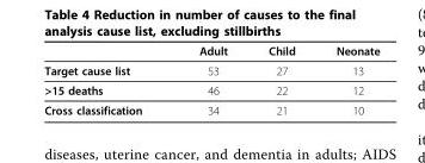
<table><thead><tr><td></td><td>Adult</td><td>Child</td><td>Neonate</td></tr></thead><tbody><tr><td>Target cause list</td><td>53</td><td>27</td><td>13</td></tr><tr><td>&gt;15 deaths</td><td>46</td><td>22</td><td>12</td></tr><tr><td>Cross classification</td><td>34</td><td>21</td><td>10</td></tr></tbody></table>